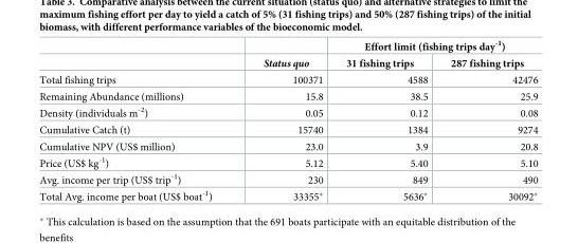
<table><thead><tr><td rowspan="2"></td><td rowspan="2">Status quo</td><td colspan="2">Effort limit (fishing trips day<sup>-1</sup>)</td></tr><tr><td>31 fishing trips</td><td>287 fishing trips</td></tr></thead><tbody><tr><td>Total fishing trips</td><td>100371</td><td>4588</td><td>42476</td></tr><tr><td>Remaining Abundance (millions)</td><td>15.8</td><td>38.5</td><td>25.9</td></tr><tr><td>Density (individuals m<sup>-2</sup>)</td><td>0.05</td><td>0.12</td><td>0.08</td></tr><tr><td>Cumulative Catch (t)</td><td>15740</td><td>1384</td><td>9274</td></tr><tr><td>Cumulative NPV (US$ million)</td><td>23.0</td><td>3.9</td><td>20.8</td></tr><tr><td>Price (US$ kg<sup>-1</sup>)</td><td>5.12</td><td>5.40</td><td>5.10</td></tr><tr><td>Avg. income per trip (US$ trip<sup>-1</sup>)</td><td>230</td><td>849</td><td>490</td></tr><tr><td>Total Avg. income per boat (US$ boat<sup>-1</sup>)</td><td>33355*</td><td>5636*</td><td>30092*</td></tr></tbody></table>